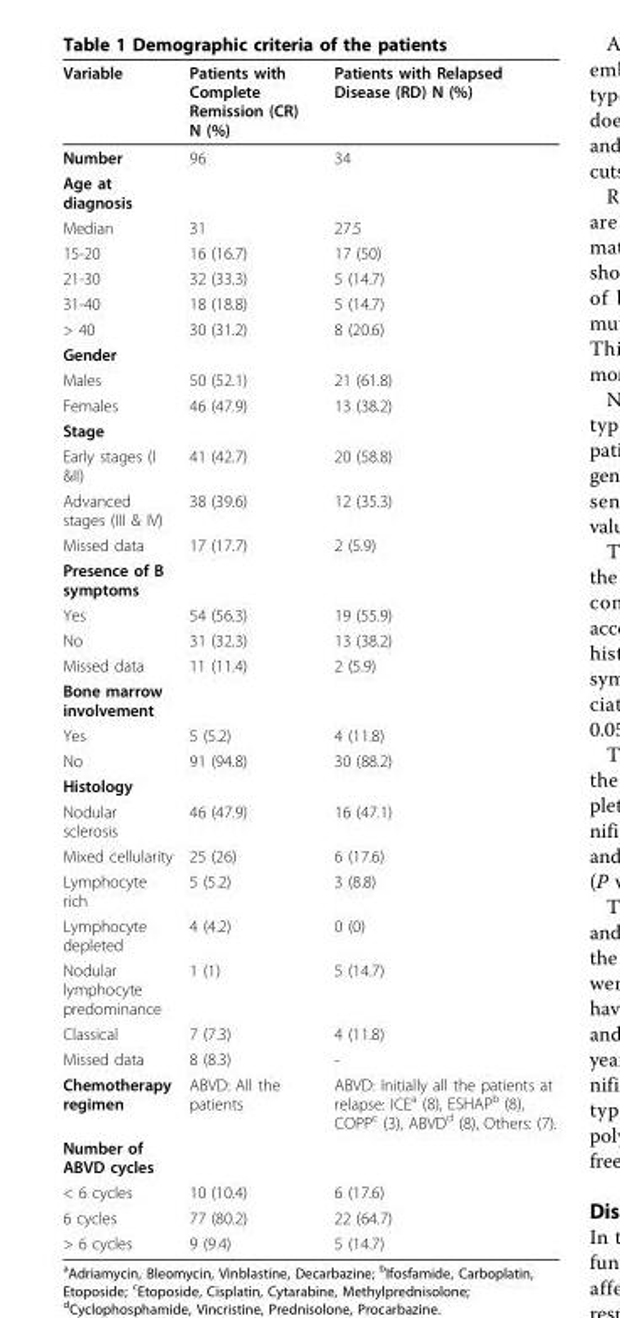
<table><thead><tr><td>Variable</td><td>Patients with Complete Remission (CR) N (%)</td><td>Patients with Relapsed Disease (RD) N (%)</td></tr></thead><tbody><tr><td>Number</td><td>96</td><td>34</td></tr><tr><td colspan="3">Age at diagnosis</td></tr><tr><td>Median</td><td>31</td><td>27.5</td></tr><tr><td>15-20</td><td>16 (16.7)</td><td>17 (50)</td></tr><tr><td>21-30</td><td>32 (33.3)</td><td>5 (14.7)</td></tr><tr><td>31-40</td><td>18 (18.8)</td><td>5 (14.7)</td></tr><tr><td>&gt; 40</td><td>30 (31.2)</td><td>8 (20.6)</td></tr><tr><td colspan="3">Gender</td></tr><tr><td>Males</td><td>50 (52.1)</td><td>21 (61.8)</td></tr><tr><td>Females</td><td>46 (47.9)</td><td>13 (38.2)</td></tr><tr><td colspan="3">Stage</td></tr><tr><td>Early stages (I &amp;II)</td><td>41 (42.7)</td><td>20 (58.8)</td></tr><tr><td>Advanced stages (III &amp; IV)</td><td>38 (39.6)</td><td>12 (35.3)</td></tr><tr><td>Missed data</td><td>17 (17.7)</td><td>2 (5.9)</td></tr><tr><td colspan="3">Presence of B symptoms</td></tr><tr><td>Yes</td><td>54 (56.3)</td><td>19 (55.9)</td></tr><tr><td>No</td><td>31 (32.3)</td><td>13 (38.2)</td></tr><tr><td>Missed data</td><td>11 (11.4)</td><td>2 (5.9)</td></tr><tr><td colspan="3">Bone marrow involvement</td></tr><tr><td>Yes</td><td>5 (5.2)</td><td>4 (11.8)</td></tr><tr><td>No</td><td>91 (94.8)</td><td>30 (88.2)</td></tr><tr><td colspan="3">Histology</td></tr><tr><td>Nodular sclerosis</td><td>46 (47.9)</td><td>16 (47.1)</td></tr><tr><td>Mixed cellularity</td><td>25 (26)</td><td>6 (17.6)</td></tr><tr><td>Lymphocyte rich</td><td>5 (5.2)</td><td>3 (8.8)</td></tr><tr><td>Lymphocyte depleted</td><td>4 (4.2)</td><td>0 (0)</td></tr><tr><td>Nodular lymphocyte predominance</td><td>1 (1)</td><td>5 (14.7)</td></tr><tr><td>Classical</td><td>7 (7.3)</td><td>4 (11.8)</td></tr><tr><td>Missed data</td><td>8 (8.3)</td><td>-</td></tr><tr><td>Chemotherapy regimen</td><td>ABVD: All the patients</td><td>ABVD: Initially all the patients at relapse: ICE<sup>a</sup> (8), ESHAP<sup>b</sup> (8), COPP<sup>c</sup> (3), ABVD<sup>d</sup> (8), Others: (7).</td></tr><tr><td colspan="3">Number of ABVD cycles</td></tr><tr><td>&lt; 6 cycles</td><td>10 (10.4)</td><td>6 (17.6)</td></tr><tr><td>6 cycles</td><td>77 (80.2)</td><td>22 (64.7)</td></tr><tr><td>&gt; 6 cycles</td><td>9 (9.4)</td><td>5 (14.7)</td></tr></tbody></table>